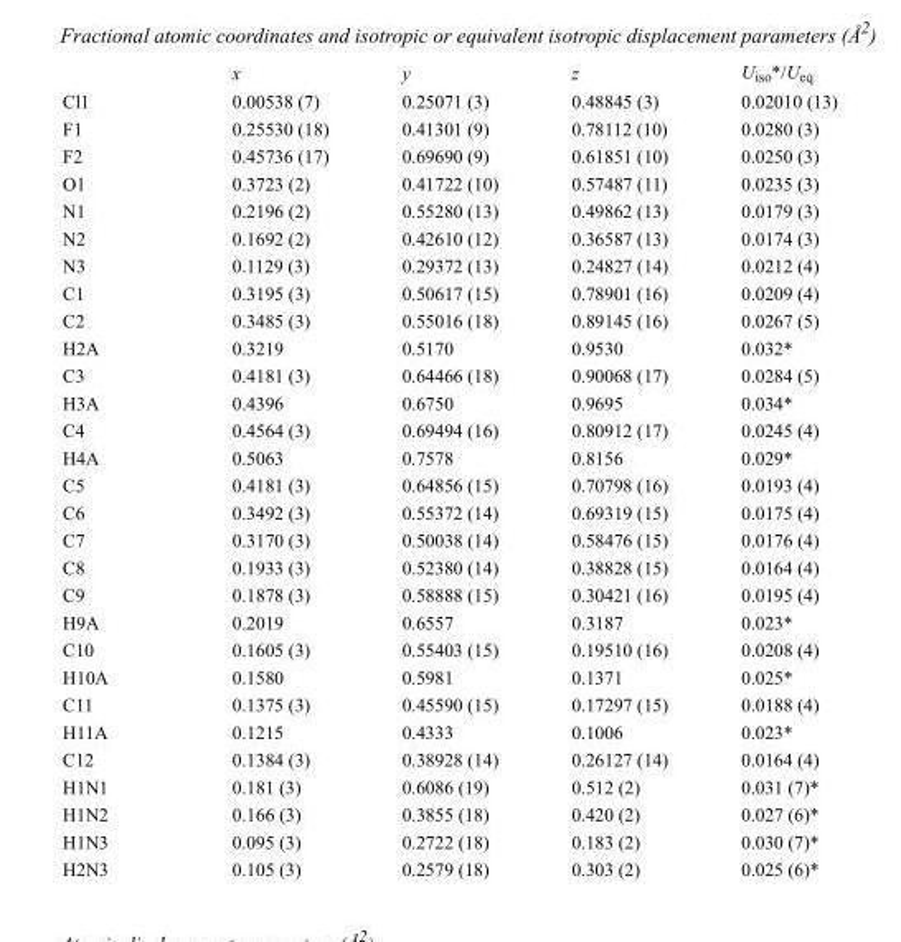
<table><thead><tr><td></td><td>x</td><td>y</td><td>z</td><td>U<sub>iso</sub>*/U<sub>eq</sub></td></tr></thead><tbody><tr><td>Cl1</td><td>0.00538 (7)</td><td>0.25071 (3)</td><td>0.48845 (3)</td><td>0.02010 (13)</td></tr><tr><td>F1</td><td>0.25530 (18)</td><td>0.41301 (9)</td><td>0.78112 (10)</td><td>0.0280 (3)</td></tr><tr><td>F2</td><td>0.45736 (17)</td><td>0.69690 (9)</td><td>0.61851 (10)</td><td>0.0250 (3)</td></tr><tr><td>O1</td><td>0.3723 (2)</td><td>0.41722 (10)</td><td>0.57487 (11)</td><td>0.0235 (3)</td></tr><tr><td>N1</td><td>0.2196 (2)</td><td>0.55280 (13)</td><td>0.49862 (13)</td><td>0.0179 (3)</td></tr><tr><td>N2</td><td>0.1692 (2)</td><td>0.42610 (12)</td><td>0.36587 (13)</td><td>0.0174 (3)</td></tr><tr><td>N3</td><td>0.1129 (3)</td><td>0.29372 (13)</td><td>0.24827 (14)</td><td>0.0212 (4)</td></tr><tr><td>C1</td><td>0.3195 (3)</td><td>0.50617 (15)</td><td>0.78901 (16)</td><td>0.0209 (4)</td></tr><tr><td>C2</td><td>0.3485 (3)</td><td>0.55016 (18)</td><td>0.89145 (16)</td><td>0.0267 (5)</td></tr><tr><td>H2A</td><td>0.3219</td><td>0.5170</td><td>0.9530</td><td>0.032*</td></tr><tr><td>C3</td><td>0.4181 (3)</td><td>0.64466 (18)</td><td>0.90068 (17)</td><td>0.0284 (5)</td></tr><tr><td>H3A</td><td>0.4396</td><td>0.6750</td><td>0.9695</td><td>0.034*</td></tr><tr><td>C4</td><td>0.4564 (3)</td><td>0.69494 (16)</td><td>0.80912 (17)</td><td>0.0245 (4)</td></tr><tr><td>H4A</td><td>0.5063</td><td>0.7578</td><td>0.8156</td><td>0.029*</td></tr><tr><td>C5</td><td>0.4181 (3)</td><td>0.64856 (15)</td><td>0.70798 (16)</td><td>0.0193 (4)</td></tr><tr><td>C6</td><td>0.3492 (3)</td><td>0.55372 (14)</td><td>0.69319 (15)</td><td>0.0175 (4)</td></tr><tr><td>C7</td><td>0.3170 (3)</td><td>0.50038 (14)</td><td>0.58476 (15)</td><td>0.0176 (4)</td></tr><tr><td>C8</td><td>0.1933 (3)</td><td>0.52380 (14)</td><td>0.38828 (15)</td><td>0.0164 (4)</td></tr><tr><td>C9</td><td>0.1878 (3)</td><td>0.58888 (15)</td><td>0.30421 (16)</td><td>0.0195 (4)</td></tr><tr><td>H9A</td><td>0.2019</td><td>0.6557</td><td>0.3187</td><td>0.023*</td></tr><tr><td>C10</td><td>0.1605 (3)</td><td>0.55403 (15)</td><td>0.19510 (16)</td><td>0.0208 (4)</td></tr><tr><td>H10A</td><td>0.1580</td><td>0.5981</td><td>0.1371</td><td>0.025*</td></tr><tr><td>C11</td><td>0.1375 (3)</td><td>0.45590 (15)</td><td>0.17297 (15)</td><td>0.0188 (4)</td></tr><tr><td>H11A</td><td>0.1215</td><td>0.4333</td><td>0.1006</td><td>0.023*</td></tr><tr><td>C12</td><td>0.1384 (3)</td><td>0.38928 (14)</td><td>0.26127 (14)</td><td>0.0164 (4)</td></tr><tr><td>H1N1</td><td>0.181 (3)</td><td>0.6086 (19)</td><td>0.512 (2)</td><td>0.031 (7)*</td></tr><tr><td>H1N2</td><td>0.166 (3)</td><td>0.3855 (18)</td><td>0.420 (2)</td><td>0.027 (6)*</td></tr><tr><td>H1N3</td><td>0.095 (3)</td><td>0.2722 (18)</td><td>0.183 (2)</td><td>0.030 (7)*</td></tr><tr><td>H2N3</td><td>0.105 (3)</td><td>0.2579 (18)</td><td>0.303 (2)</td><td>0.025 (6)*</td></tr></tbody></table>